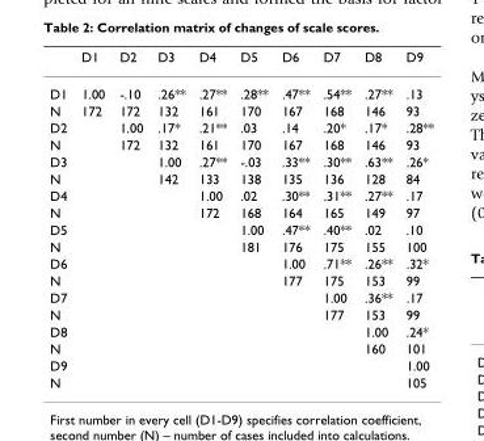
<table><thead><tr><td></td><td>D1</td><td>D2</td><td>D3</td><td>D4</td><td>D5</td><td>D6</td><td>D7</td><td>D8</td><td>D9</td></tr></thead><tbody><tr><td>D1</td><td>1.00</td><td>-.10</td><td>.26**</td><td>.27**</td><td>.28**</td><td>.47**</td><td>.54**</td><td>.27**</td><td>.13</td></tr><tr><td>N</td><td>172</td><td>172</td><td>132</td><td>161</td><td>170</td><td>167</td><td>168</td><td>146</td><td>93</td></tr><tr><td>D2</td><td></td><td>1.00</td><td>.17*</td><td>.21**</td><td>.03</td><td>.14</td><td>.20*</td><td>.17*</td><td>.28**</td></tr><tr><td>N</td><td></td><td>172</td><td>132</td><td>161</td><td>170</td><td>167</td><td>168</td><td>146</td><td>93</td></tr><tr><td>D3</td><td></td><td></td><td>1.00</td><td>.27**</td><td>-.03</td><td>.33**</td><td>.30**</td><td>.63**</td><td>.26*</td></tr><tr><td>N</td><td></td><td></td><td>142</td><td>133</td><td>138</td><td>135</td><td>136</td><td>128</td><td>84</td></tr><tr><td>D4</td><td></td><td></td><td></td><td>1.00</td><td>.02</td><td>.30**</td><td>.31**</td><td>.27**</td><td>.17</td></tr><tr><td>N</td><td></td><td></td><td></td><td>172</td><td>168</td><td>164</td><td>165</td><td>149</td><td>97</td></tr><tr><td>D5</td><td></td><td></td><td></td><td></td><td>1.00</td><td>.47**</td><td>.40**</td><td>.02</td><td>.10</td></tr><tr><td>N</td><td></td><td></td><td></td><td></td><td>181</td><td>176</td><td>175</td><td>155</td><td>100</td></tr><tr><td>D6</td><td></td><td></td><td></td><td></td><td></td><td>1.00</td><td>.71**</td><td>.26**</td><td>.32*</td></tr><tr><td>N</td><td></td><td></td><td></td><td></td><td></td><td>177</td><td>175</td><td>153</td><td>99</td></tr><tr><td>D7</td><td></td><td></td><td></td><td></td><td></td><td></td><td>1.00</td><td>.36**</td><td>.17</td></tr><tr><td>N</td><td></td><td></td><td></td><td></td><td></td><td></td><td>177</td><td>153</td><td>99</td></tr><tr><td>D8</td><td></td><td></td><td></td><td></td><td></td><td></td><td></td><td>1.00</td><td>.24*</td></tr><tr><td>N</td><td></td><td></td><td></td><td></td><td></td><td></td><td></td><td>160</td><td>101</td></tr><tr><td>D9</td><td></td><td></td><td></td><td></td><td></td><td></td><td></td><td></td><td>1.00</td></tr><tr><td>N</td><td></td><td></td><td></td><td></td><td></td><td></td><td></td><td></td><td>105</td></tr></tbody></table>